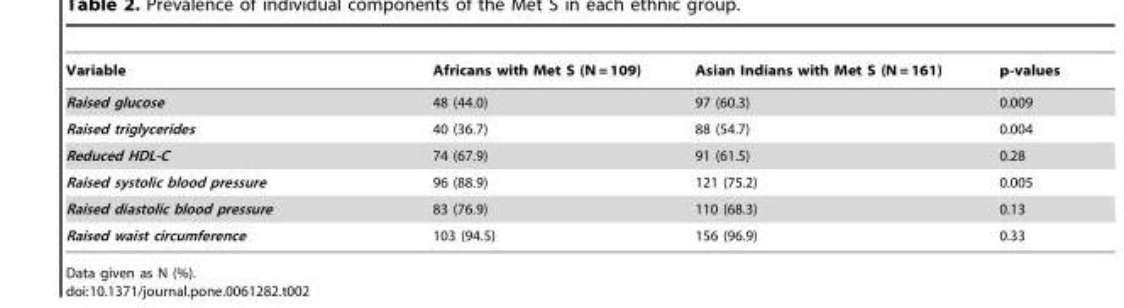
<table><thead><tr><td>Variable</td><td>Africans with Met S (N = 109)</td><td>Asian Indians with Met S (N = 161)</td><td>p-values</td></tr></thead><tbody><tr><td>Raised glucose</td><td>48 (44.0)</td><td>97 (60.3)</td><td>0.009</td></tr><tr><td>Raised triglycerides</td><td>40 (36.7)</td><td>88 (54.7)</td><td>0.004</td></tr><tr><td>Reduced HDL-C</td><td>74 (67.9)</td><td>91 (61.5)</td><td>0.28</td></tr><tr><td>Raised systolic blood pressure</td><td>96 (88.9)</td><td>121 (75.2)</td><td>0.005</td></tr><tr><td>Raised diastolic blood pressure</td><td>83 (76.9)</td><td>110 (68.3)</td><td>0.13</td></tr><tr><td>Raised waist circumference</td><td>103 (94.5)</td><td>156 (96.9)</td><td>0.33</td></tr></tbody></table>